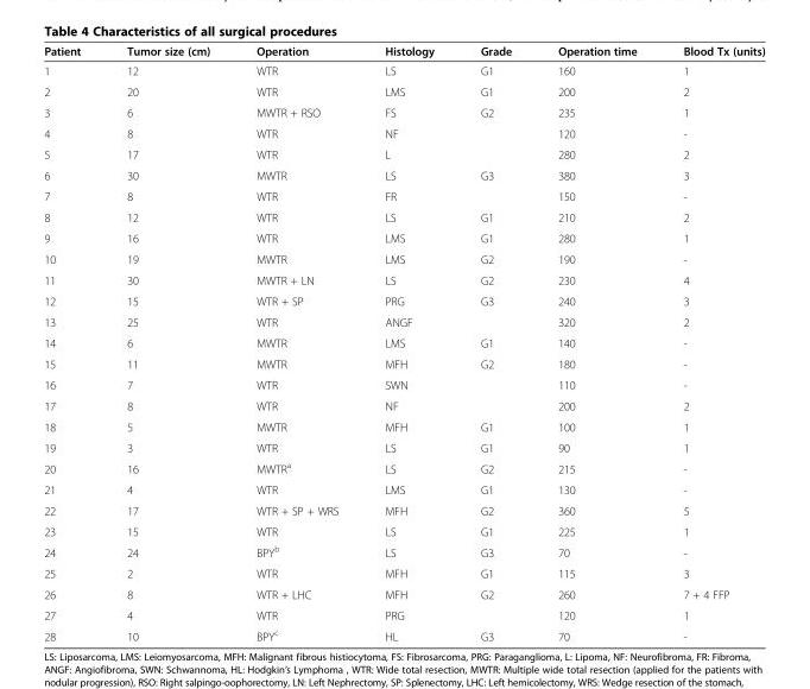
<table><thead><tr><td>Patient</td><td>Tumor size (cm)</td><td>Operation</td><td>Histology</td><td>Grade</td><td>Operation time</td><td>Blood Tx (units)</td></tr></thead><tbody><tr><td>1</td><td>12</td><td>WTR</td><td>LS</td><td>G1</td><td>160</td><td>1</td></tr><tr><td>2</td><td>20</td><td>WTR</td><td>LMS</td><td>G1</td><td>200</td><td>2</td></tr><tr><td>3</td><td>6</td><td>MWTR + RSO</td><td>FS</td><td>G2</td><td>235</td><td>1</td></tr><tr><td>4</td><td>8</td><td>WTR</td><td>NF</td><td></td><td>120</td><td>-</td></tr><tr><td>5</td><td>17</td><td>WTR</td><td>L</td><td></td><td>280</td><td>2</td></tr><tr><td>6</td><td>30</td><td>MWTR</td><td>LS</td><td>G3</td><td>380</td><td>3</td></tr><tr><td>7</td><td>8</td><td>WTR</td><td>FR</td><td></td><td>150</td><td>-</td></tr><tr><td>8</td><td>12</td><td>WTR</td><td>LS</td><td>G1</td><td>210</td><td>2</td></tr><tr><td>9</td><td>16</td><td>WTR</td><td>LMS</td><td>G1</td><td>280</td><td>1</td></tr><tr><td>10</td><td>19</td><td>MWTR</td><td>LMS</td><td>G2</td><td>190</td><td>-</td></tr><tr><td>11</td><td>30</td><td>MWTR + LN</td><td>LS</td><td>G2</td><td>230</td><td>4</td></tr><tr><td>12</td><td>15</td><td>WTR + SP</td><td>PRG</td><td>G3</td><td>240</td><td>3</td></tr><tr><td>13</td><td>25</td><td>WTR</td><td>ANGF</td><td></td><td>320</td><td>2</td></tr><tr><td>14</td><td>6</td><td>MWTR</td><td>LMS</td><td>G1</td><td>140</td><td>-</td></tr><tr><td>15</td><td>11</td><td>MWTR</td><td>MFH</td><td>G2</td><td>180</td><td>-</td></tr><tr><td>16</td><td>7</td><td>WTR</td><td>SWN</td><td></td><td>110</td><td>-</td></tr><tr><td>17</td><td>8</td><td>WTR</td><td>NF</td><td></td><td>200</td><td>2</td></tr><tr><td>18</td><td>5</td><td>MWTR</td><td>MFH</td><td>G1</td><td>100</td><td>1</td></tr><tr><td>19</td><td>3</td><td>WTR</td><td>LS</td><td>G1</td><td>90</td><td>1</td></tr><tr><td>20</td><td>16</td><td>MWTR<sup>a</sup></td><td>LS</td><td>G2</td><td>215</td><td>-</td></tr><tr><td>21</td><td>4</td><td>WTR</td><td>LMS</td><td>G1</td><td>130</td><td>-</td></tr><tr><td>22</td><td>17</td><td>WTR + SP + WRS</td><td>MFH</td><td>G2</td><td>360</td><td>5</td></tr><tr><td>23</td><td>15</td><td>WTR</td><td>LS</td><td>G1</td><td>225</td><td>1</td></tr><tr><td>24</td><td>24</td><td>BPY<sup>b</sup></td><td>LS</td><td>G3</td><td>70</td><td>-</td></tr><tr><td>25</td><td>2</td><td>WTR</td><td>MFH</td><td>G1</td><td>115</td><td>3</td></tr><tr><td>26</td><td>8</td><td>WTR + LHC</td><td>MFH</td><td>G2</td><td>260</td><td>7 + 4 FFP</td></tr><tr><td>27</td><td>4</td><td>WTR</td><td>PRG</td><td></td><td>120</td><td>1</td></tr><tr><td>28</td><td>10</td><td>BPY<sup>c</sup></td><td>HL</td><td>G3</td><td>70</td><td>-</td></tr></tbody></table>